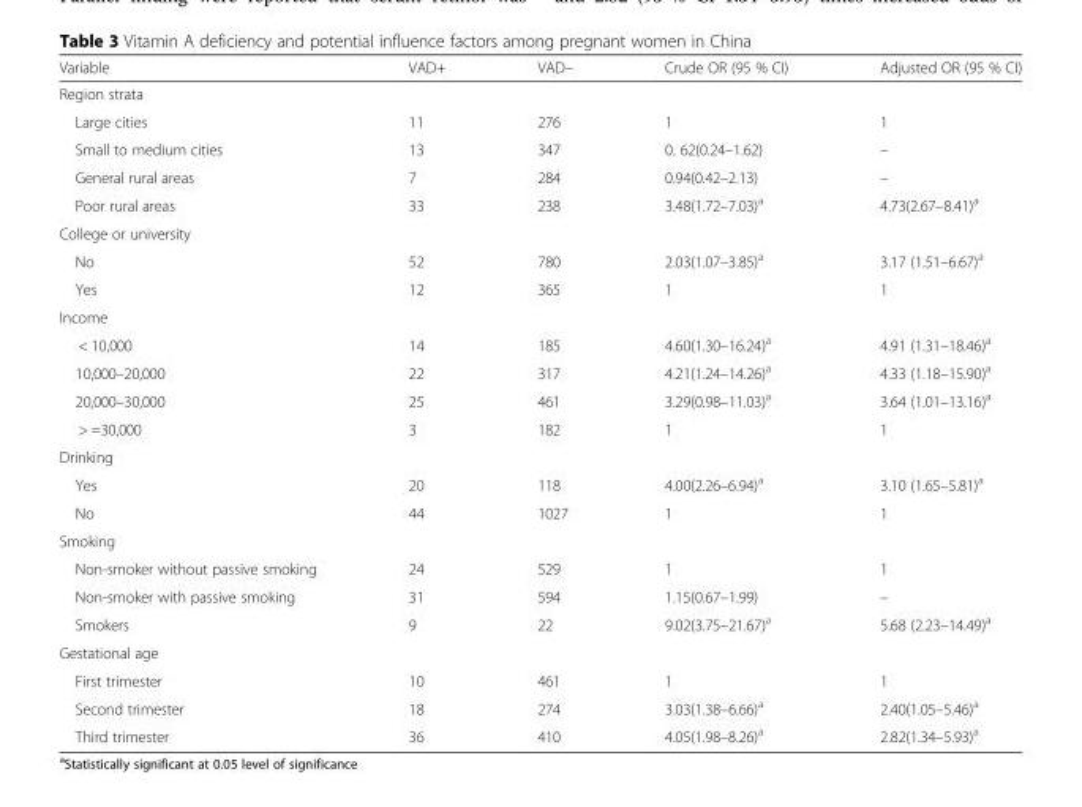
<table><thead><tr><td>Variable</td><td>VAD+</td><td>VAD–</td><td>Crude OR (95 % CI)</td><td>Adjusted OR (95 % CI)</td></tr></thead><tbody><tr><td colspan="5">Region strata</td></tr><tr><td>Large cities</td><td>11</td><td>276</td><td>1</td><td>1</td></tr><tr><td>Small to medium cities</td><td>13</td><td>347</td><td>0. 62(0.24–1.62)</td><td>–</td></tr><tr><td>General rural areas</td><td>7</td><td>284</td><td>0.94(0.42–2.13)</td><td>–</td></tr><tr><td>Poor rural areas</td><td>33</td><td>238</td><td>3.48(1.72–7.03)<sup>a</sup></td><td>4.73(2.67–8.41)<sup>a</sup></td></tr><tr><td colspan="5">College or university</td></tr><tr><td>No</td><td>52</td><td>780</td><td>2.03(1.07–3.85)<sup>a</sup></td><td>3.17 (1.51–6.67)<sup>a</sup></td></tr><tr><td>Yes</td><td>12</td><td>365</td><td>1</td><td>1</td></tr><tr><td colspan="5">Income</td></tr><tr><td>&lt; 10,000</td><td>14</td><td>185</td><td>4.60(1.30–16.24)<sup>a</sup></td><td>4.91 (1.31–18.46)<sup>a</sup></td></tr><tr><td>10,000–20,000</td><td>22</td><td>317</td><td>4.21(1.24–14.26)<sup>a</sup></td><td>4.33 (1.18–15.90)<sup>a</sup></td></tr><tr><td>20,000–30,000</td><td>25</td><td>461</td><td>3.29(0.98–11.03)<sup>a</sup></td><td>3.64 (1.01–13.16)<sup>a</sup></td></tr><tr><td>&gt; =30,000</td><td>3</td><td>182</td><td>1</td><td>1</td></tr><tr><td colspan="5">Drinking</td></tr><tr><td>Yes</td><td>20</td><td>118</td><td>4.00(2.26–6.94)<sup>a</sup></td><td>3.10 (1.65–5.81)<sup>a</sup></td></tr><tr><td>No</td><td>44</td><td>1027</td><td>1</td><td>1</td></tr><tr><td colspan="5">Smoking</td></tr><tr><td>Non-smoker without passive smoking</td><td>24</td><td>529</td><td>1</td><td>1</td></tr><tr><td>Non-smoker with passive smoking</td><td>31</td><td>594</td><td>1.15(0.67–1.99)</td><td>–</td></tr><tr><td>Smokers</td><td>9</td><td>22</td><td>9.02(3.75–21.67)<sup>a</sup></td><td>5.68 (2.23–14.49)<sup>a</sup></td></tr><tr><td colspan="5">Gestational age</td></tr><tr><td>First trimester</td><td>10</td><td>461</td><td>1</td><td>1</td></tr><tr><td>Second trimester</td><td>18</td><td>274</td><td>3.03(1.38–6.66)<sup>a</sup></td><td>2.40(1.05–5.46)<sup>a</sup></td></tr><tr><td>Third trimester</td><td>36</td><td>410</td><td>4.05(1.98–8.26)<sup>a</sup></td><td>2.82(1.34–5.93)<sup>a</sup></td></tr></tbody></table>